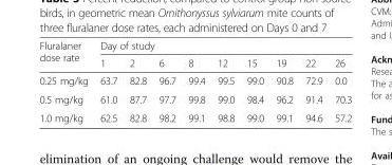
<table><thead><tr><td rowspan="2">Fluralaner dose rate</td><td colspan="9">Day of study</td></tr><tr><td>1</td><td>2</td><td>6</td><td>8</td><td>12</td><td>15</td><td>19</td><td>22</td><td>26</td></tr></thead><tbody><tr><td>0.25 mg/kg</td><td>63.7</td><td>82.8</td><td>96.7</td><td>99.4</td><td>99.5</td><td>99.0</td><td>90.8</td><td>72.9</td><td>0.0</td></tr><tr><td>0.5 mg/kg</td><td>61.0</td><td>87.7</td><td>97.7</td><td>99.8</td><td>99.0</td><td>98.4</td><td>96.2</td><td>91.4</td><td>70.3</td></tr><tr><td>1.0 mg/kg</td><td>62.5</td><td>82.8</td><td>98.2</td><td>99.1</td><td>98.8</td><td>99.0</td><td>99.1</td><td>94.6</td><td>57.2</td></tr></tbody></table>